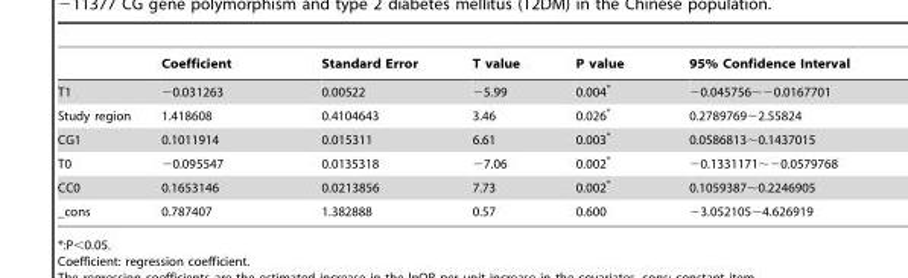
<table><thead><tr><td></td><td>Coefficient</td><td>Standard Error</td><td>T value</td><td>P value</td><td>95% Confidence Interval</td></tr></thead><tbody><tr><td>T1</td><td>−0.031263</td><td>0.00522</td><td>−5.99</td><td>0.004*</td><td>−0.045756∼−0.0167701</td></tr><tr><td>Study region</td><td>1.418608</td><td>0.4104643</td><td>3.46</td><td>0.026*</td><td>0.2789769∼2.55824</td></tr><tr><td>CG1</td><td>0.1011914</td><td>0.015311</td><td>6.61</td><td>0.003*</td><td>0.0586813∼0.1437015</td></tr><tr><td>T0</td><td>−0.095547</td><td>0.0135318</td><td>−7.06</td><td>0.002*</td><td>−0.1331171∼−0.0579768</td></tr><tr><td>CC0</td><td>0.1653146</td><td>0.0213856</td><td>7.73</td><td>0.002*</td><td>0.1059387∼0.2246905</td></tr><tr><td>_cons</td><td>0.787407</td><td>1.382888</td><td>0.57</td><td>0.600</td><td>−3.052105∼4.626919</td></tr></tbody></table>